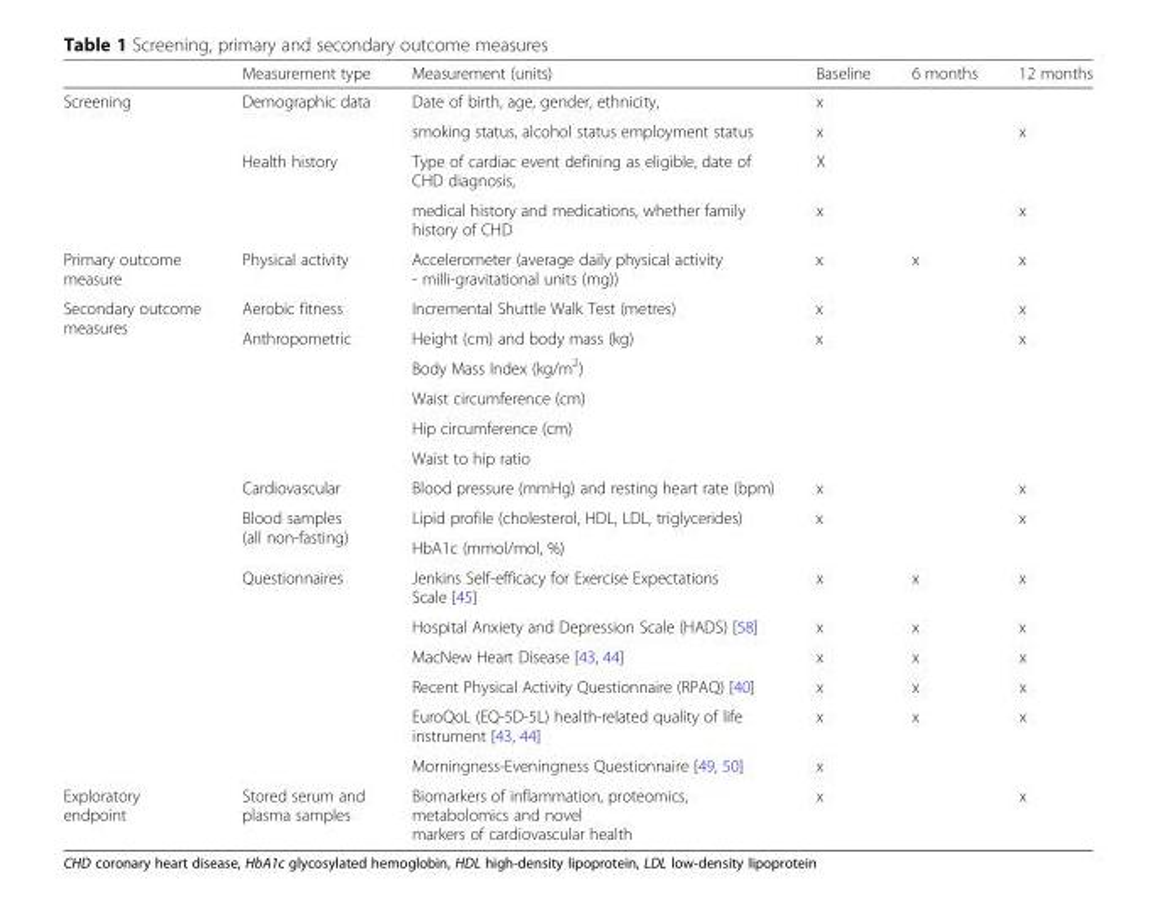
<table><thead><tr><td></td><td>Measurement type</td><td>Measurement (units)</td><td>Baseline</td><td>6 months</td><td>12 months</td></tr></thead><tbody><tr><td rowspan="4">Screening</td><td rowspan="2">Demographic data</td><td>Date of birth, age, gender, ethnicity,</td><td>x</td><td></td><td></td></tr><tr><td>smoking status, alcohol status employment status</td><td>x</td><td></td><td>x</td></tr><tr><td rowspan="2">Health history</td><td>Type of cardiac event defining as eligible, date of CHD diagnosis,</td><td>X</td><td></td><td></td></tr><tr><td>medical history and medications, whether family history of CHD</td><td>x</td><td></td><td>x</td></tr><tr><td>Primary outcome measure</td><td>Physical activity</td><td>Accelerometer (average daily physical activity - milli-gravitational units (mg))</td><td>x</td><td>x</td><td>x</td></tr><tr><td rowspan="15">Secondary outcome measures</td><td>Aerobic fitness</td><td>Incremental Shuttle Walk Test (metres)</td><td>x</td><td></td><td>x</td></tr><tr><td rowspan="5">Anthropometric</td><td>Height (cm) and body mass (kg)</td><td rowspan="5">x</td><td rowspan="5"></td><td rowspan="5">x</td></tr><tr><td>Body Mass Index (kg/m<sup>2</sup>)</td></tr><tr><td>Waist circumference (cm)</td></tr><tr><td>Hip circumference (cm)</td></tr><tr><td>Waist to hip ratio</td></tr><tr><td>Cardiovascular</td><td>Blood pressure (mmHg) and resting heart rate (bpm)</td><td>x</td><td></td><td>x</td></tr><tr><td rowspan="2">Blood samples (all non-fasting)</td><td>Lipid profile (cholesterol, HDL, LDL, triglycerides)</td><td rowspan="2">x</td><td rowspan="2"></td><td rowspan="2">x</td></tr><tr><td>HbA1c (mmol/mol, %)</td></tr><tr><td rowspan="6">Questionnaires</td><td>Jenkins Self-efficacy for Exercise Expectations Scale [45]</td><td>x</td><td>x</td><td>x</td></tr><tr><td>Hospital Anxiety and Depression Scale (HADS) [58]</td><td>x</td><td>x</td><td>x</td></tr><tr><td>MacNew Heart Disease [43, 44]</td><td>x</td><td>x</td><td>x</td></tr><tr><td>Recent Physical Activity Questionnaire (RPAQ) [40]</td><td>x</td><td>x</td><td>x</td></tr><tr><td>EuroQoL (EQ-5D-5L) health-related quality of life instrument [43, 44]</td><td>x</td><td>x</td><td>x</td></tr><tr><td>Morningness-Eveningness Questionnaire [49, 50]</td><td>x</td><td></td><td></td></tr><tr><td>Exploratory endpoint</td><td>Stored serum and plasma samples</td><td>Biomarkers of inflammation, proteomics, metabolomics and novel markers of cardiovascular health</td><td>x</td><td></td><td>x</td></tr></tbody></table>